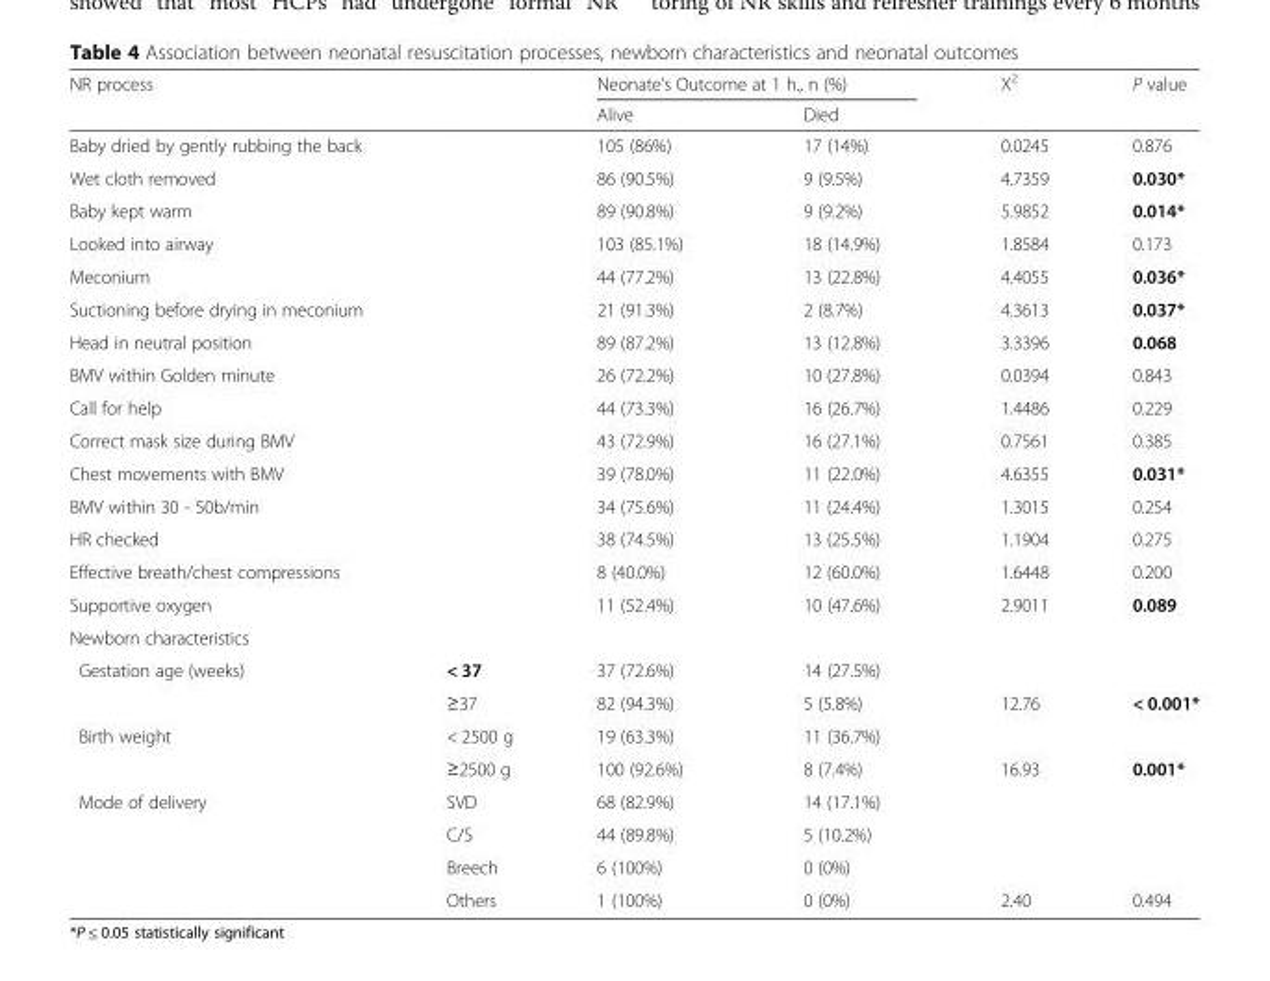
<table><thead><tr><td rowspan="2">NR process</td><td rowspan="2"></td><td colspan="2">Neonate’s Outcome at 1 h., n (%)</td><td rowspan="2">X<sup>2</sup></td><td rowspan="2">P value</td></tr><tr><td>Alive</td><td>Died</td></tr></thead><tbody><tr><td>Baby dried by gently rubbing the back</td><td></td><td>105 (86%)</td><td>17 (14%)</td><td>0.0245</td><td>0.876</td></tr><tr><td>Wet cloth removed</td><td></td><td>86 (90.5%)</td><td>9 (9.5%)</td><td>4.7359</td><td>0.030*</td></tr><tr><td>Baby kept warm</td><td></td><td>89 (90.8%)</td><td>9 (9.2%)</td><td>5.9852</td><td>0.014*</td></tr><tr><td>Looked into airway</td><td></td><td>103 (85.1%)</td><td>18 (14.9%)</td><td>1.8584</td><td>0.173</td></tr><tr><td>Meconium</td><td></td><td>44 (77.2%)</td><td>13 (22.8%)</td><td>4.4055</td><td>0.036*</td></tr><tr><td>Suctioning before drying in meconium</td><td></td><td>21 (91.3%)</td><td>2 (8.7%)</td><td>4.3613</td><td>0.037*</td></tr><tr><td>Head in neutral position</td><td></td><td>89 (87.2%)</td><td>13 (12.8%)</td><td>3.3396</td><td>0.068</td></tr><tr><td>BMV within Golden minute</td><td></td><td>26 (72.2%)</td><td>10 (27.8%)</td><td>0.0394</td><td>0.843</td></tr><tr><td>Call for help</td><td></td><td>44 (73.3%)</td><td>16 (26.7%)</td><td>1.4486</td><td>0.229</td></tr><tr><td>Correct mask size during BMV</td><td></td><td>43 (72.9%)</td><td>16 (27.1%)</td><td>0.7561</td><td>0.385</td></tr><tr><td>Chest movements with BMV</td><td></td><td>39 (78.0%)</td><td>11 (22.0%)</td><td>4.6355</td><td>0.031*</td></tr><tr><td>BMV within 30 - 50b/min</td><td></td><td>34 (75.6%)</td><td>11 (24.4%)</td><td>1.3015</td><td>0.254</td></tr><tr><td>HR checked</td><td></td><td>38 (74.5%)</td><td>13 (25.5%)</td><td>1.1904</td><td>0.275</td></tr><tr><td>Effective breath/chest compressions</td><td></td><td>8 (40.0%)</td><td>12 (60.0%)</td><td>1.6448</td><td>0.200</td></tr><tr><td>Supportive oxygen</td><td></td><td>11 (52.4%)</td><td>10 (47.6%)</td><td>2.9011</td><td>0.089</td></tr><tr><td colspan="6">Newborn characteristics</td></tr><tr><td rowspan="2">Gestation age (weeks)</td><td>&lt; 37</td><td>37 (72.6%)</td><td>14 (27.5%)</td><td></td><td></td></tr><tr><td>≥37</td><td>82 (94.3%)</td><td>5 (5.8%)</td><td>12.76</td><td>&lt; 0.001*</td></tr><tr><td rowspan="2">Birth weight</td><td>&lt; 2500 g</td><td>19 (63.3%)</td><td>11 (36.7%)</td><td></td><td></td></tr><tr><td>≥2500 g</td><td>100 (92.6%)</td><td>8 (7.4%)</td><td>16.93</td><td>0.001*</td></tr><tr><td rowspan="4">Mode of delivery</td><td>SVD</td><td>68 (82.9%)</td><td>14 (17.1%)</td><td></td><td></td></tr><tr><td>C/S</td><td>44 (89.8%)</td><td>5 (10.2%)</td><td></td><td></td></tr><tr><td>Breech</td><td>6 (100%)</td><td>0 (0%)</td><td></td><td></td></tr><tr><td>Others</td><td>1 (100%)</td><td>0 (0%)</td><td>2.40</td><td>0.494</td></tr></tbody></table>